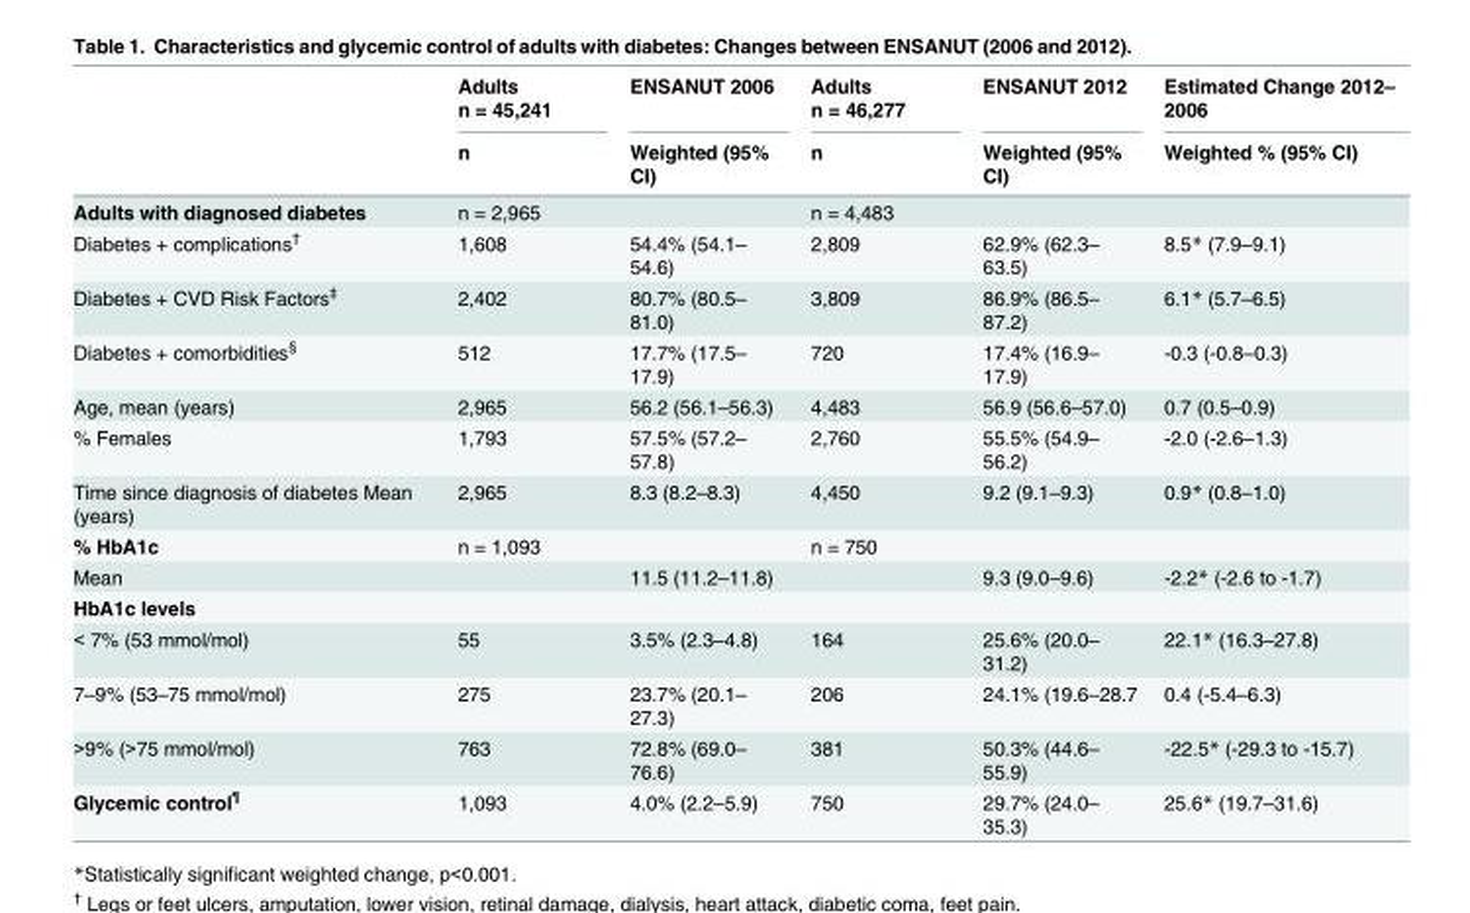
<table><thead><tr><td rowspan="2"></td><td rowspan="2">Adults n = 45,241 n</td><td rowspan="2">ENSANUT 2006 Weighted (95% CI)</td><td rowspan="2">Adults n = 46,277 n</td><td rowspan="2">ENSANUT 2012 Weighted (95% CI)</td><td rowspan="2">Estimated Change 2012– 2006 Weighted % (95% CI)</td></tr><tr></tr></thead><tbody><tr><td>Adults with diagnosed diabetes</td><td>n = 2,965</td><td></td><td>n = 4,483</td><td></td><td></td></tr><tr><td>Diabetes + complications<sup>†</sup></td><td>1,608</td><td>54.4% (54.1– 54.6)</td><td>2,809</td><td>62.9% (62.3– 63.5)</td><td>8.5* (7.9–9.1)</td></tr><tr><td>Diabetes + CVD Risk Factors<sup>‡</sup></td><td>2,402</td><td>80.7% (80.5– 81.0)</td><td>3,809</td><td>86.9% (86.5– 87.2)</td><td>6.1* (5.7–6.5)</td></tr><tr><td>Diabetes + comorbidities<sup>§</sup></td><td>512</td><td>17.7% (17.5– 17.9)</td><td>720</td><td>17.4% (16.9– 17.9)</td><td>-0.3 (-0.8–0.3)</td></tr><tr><td>Age, mean (years)</td><td>2,965</td><td>56.2 (56.1–56.3)</td><td>4,483</td><td>56.9 (56.6–57.0)</td><td>0.7 (0.5–0.9)</td></tr><tr><td>% Females</td><td>1,793</td><td>57.5% (57.2– 57.8)</td><td>2,760</td><td>55.5% (54.9– 56.2)</td><td>-2.0 (-2.6–1.3)</td></tr><tr><td>Time since diagnosis of diabetes Mean (years)</td><td>2,965</td><td>8.3 (8.2–8.3)</td><td>4,450</td><td>9.2 (9.1–9.3)</td><td>0.9* (0.8–1.0)</td></tr><tr><td>% HbA1c</td><td>n = 1,093</td><td></td><td>n = 750</td><td></td><td></td></tr><tr><td>Mean</td><td></td><td>11.5 (11.2–11.8)</td><td></td><td>9.3 (9.0–9.6)</td><td>-2.2* (-2.6 to -1.7)</td></tr><tr><td colspan="6">HbA1c levels</td></tr><tr><td>&lt; 7% (53 mmol/mol)</td><td>55</td><td>3.5% (2.3–4.8)</td><td>164</td><td>25.6% (20.0– 31.2)</td><td>22.1* (16.3–27.8)</td></tr><tr><td>7–9% (53–75 mmol/mol)</td><td>275</td><td>23.7% (20.1– 27.3)</td><td>206</td><td>24.1% (19.6–28.7</td><td>0.4 (-5.4–6.3)</td></tr><tr><td>&gt;9% (&gt;75 mmol/mol)</td><td>763</td><td>72.8% (69.0– 76.6)</td><td>381</td><td>50.3% (44.6– 55.9)</td><td>-22.5* (-29.3 to -15.7)</td></tr><tr><td>Glycemic control<sup>¶</sup></td><td>1,093</td><td>4.0% (2.2–5.9)</td><td>750</td><td>29.7% (24.0– 35.3)</td><td>25.6* (19.7–31.6)</td></tr></tbody></table>